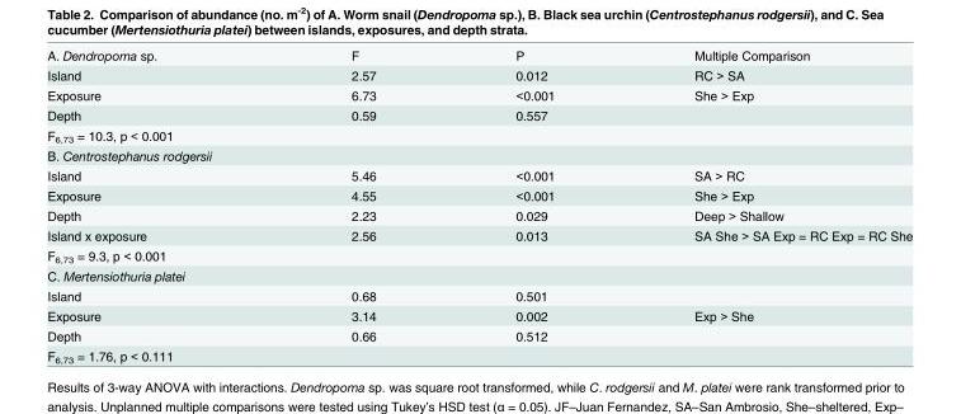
<table><tbody><tr><td>A. Dendropoma sp.</td><td>F</td><td>P</td><td>Multiple Comparison</td></tr><tr><td>Island</td><td>2.57</td><td>0.012</td><td>RC &gt; SA</td></tr><tr><td>Exposure</td><td>6.73</td><td>&lt;0.001</td><td>She &gt; Exp</td></tr><tr><td>Depth</td><td>0.59</td><td>0.557</td><td></td></tr><tr><td colspan="4">F<sub>6,73</sub> = 10.3, p &lt; 0.001</td></tr><tr><td colspan="4">B. Centrostephanus rodgersii</td></tr><tr><td>Island</td><td>5.46</td><td>&lt;0.001</td><td>SA &gt; RC</td></tr><tr><td>Exposure</td><td>4.55</td><td>&lt;0.001</td><td>She &gt; Exp</td></tr><tr><td>Depth</td><td>2.23</td><td>0.029</td><td>Deep &gt; Shallow</td></tr><tr><td>Island x exposure</td><td>2.56</td><td>0.013</td><td>SA She &gt; SA Exp = RC Exp = RC She</td></tr><tr><td colspan="4">F<sub>6,73</sub> = 9.3, p &lt; 0.001</td></tr><tr><td colspan="4">C. Mertensiothuria platei</td></tr><tr><td>Island</td><td>0.68</td><td>0.501</td><td></td></tr><tr><td>Exposure</td><td>3.14</td><td>0.002</td><td>Exp &gt; She</td></tr><tr><td>Depth</td><td>0.66</td><td>0.512</td><td></td></tr><tr><td>F<sub>6,73</sub> = 1.76, p &lt; 0.111</td><td></td><td></td><td></td></tr></tbody></table>